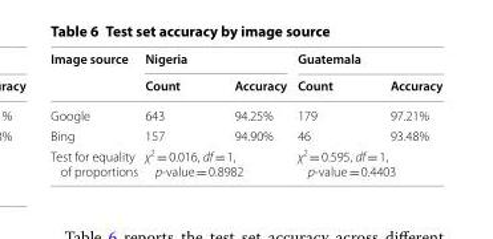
<table><thead><tr><td rowspan="2">Image source</td><td colspan="2">Nigeria</td><td colspan="2">Guatemala</td></tr><tr><td>Count</td><td>Accuracy</td><td>Count</td><td>Accuracy</td></tr></thead><tbody><tr><td>Google</td><td>643</td><td>94.25%</td><td>179</td><td>97.21%</td></tr><tr><td>Bing</td><td>157</td><td>94.90%</td><td>46</td><td>93.48%</td></tr><tr><td>Test for equality of proportions</td><td colspan="2">χ<sup>2</sup> = 0.016, df = 1, p-value = 0.8982</td><td colspan="2">χ<sup>2</sup> = 0.595, df = 1, p-value = 0.4403</td></tr></tbody></table>